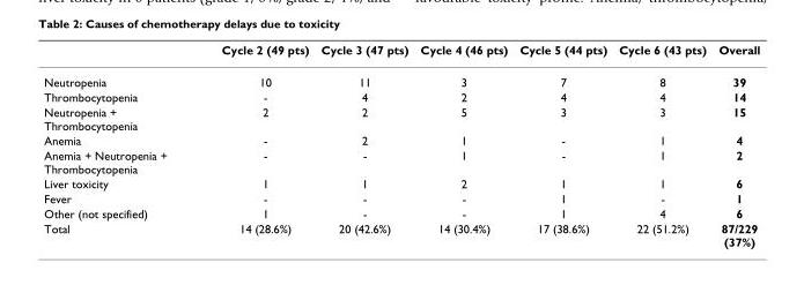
<table><thead><tr><td></td><td>Cycle 2 (49 pts)</td><td>Cycle 3 (47 pts)</td><td>Cycle 4 (46 pts)</td><td>Cycle 5 (44 pts)</td><td>Cycle 6 (43 pts)</td><td>Overall</td></tr></thead><tbody><tr><td>Neutropenia</td><td>10</td><td>11</td><td>3</td><td>7</td><td>8</td><td>39</td></tr><tr><td>Thrombocytopenia</td><td>-</td><td>4</td><td>2</td><td>4</td><td>4</td><td>14</td></tr><tr><td>Neutropenia + Thrombocytopenia</td><td>2</td><td>2</td><td>5</td><td>3</td><td>3</td><td>15</td></tr><tr><td>Anemia</td><td>-</td><td>2</td><td>1</td><td>-</td><td>1</td><td>4</td></tr><tr><td>Anemia + Neutropenia + Thrombocytopenia</td><td>-</td><td>-</td><td>1</td><td>-</td><td>1</td><td>2</td></tr><tr><td>Liver toxicity</td><td>1</td><td>1</td><td>2</td><td>1</td><td>1</td><td>6</td></tr><tr><td>Fever</td><td>-</td><td>-</td><td>-</td><td>1</td><td>-</td><td>1</td></tr><tr><td>Other (not specified)</td><td>1</td><td>-</td><td>-</td><td>1</td><td>4</td><td>6</td></tr><tr><td>Total</td><td>14 (28.6%)</td><td>20 (42.6%)</td><td>14 (30.4%)</td><td>17 (38.6%)</td><td>22 (51.2%)</td><td>87/229 (37%)</td></tr></tbody></table>